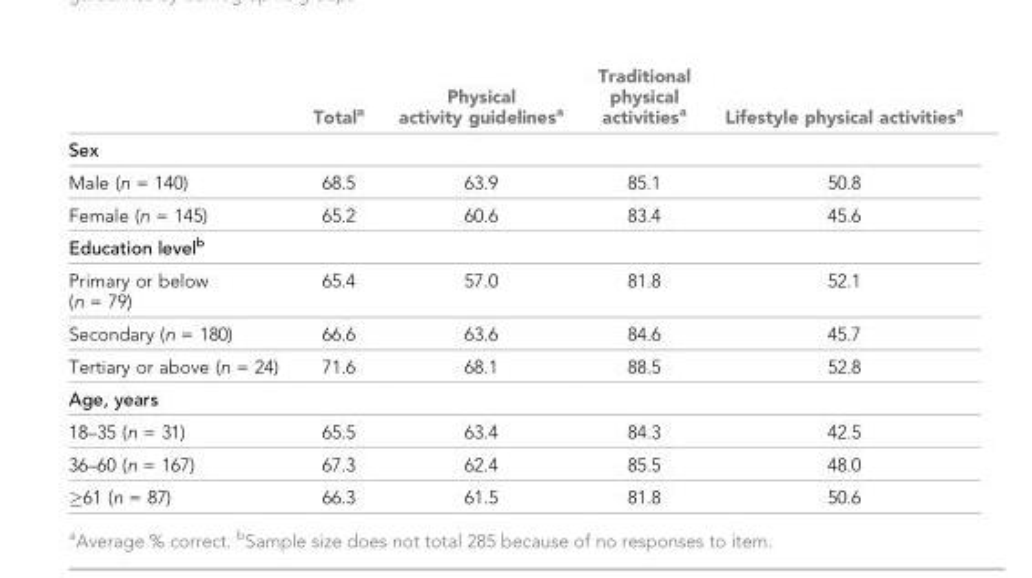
<table><thead><tr><td></td><td>Total<sup>a</sup></td><td>Physical activity guidelines<sup>a</sup></td><td>Traditional physical activities<sup>a</sup></td><td>Lifestyle physical activities<sup>a</sup></td></tr></thead><tbody><tr><td colspan="5">Sex</td></tr><tr><td>Male (n = 140)</td><td>68.5</td><td>63.9</td><td>85.1</td><td>50.8</td></tr><tr><td>Female (n = 145)</td><td>65.2</td><td>60.6</td><td>83.4</td><td>45.6</td></tr><tr><td colspan="5">Education level<sup>b</sup></td></tr><tr><td>Primary or below (n = 79)</td><td>65.4</td><td>57.0</td><td>81.8</td><td>52.1</td></tr><tr><td>Secondary (n = 180)</td><td>66.6</td><td>63.6</td><td>84.6</td><td>45.7</td></tr><tr><td>Tertiary or above (n = 24)</td><td>71.6</td><td>68.1</td><td>88.5</td><td>52.8</td></tr><tr><td colspan="5">Age, years</td></tr><tr><td>18–35 (n = 31)</td><td>65.5</td><td>63.4</td><td>84.3</td><td>42.5</td></tr><tr><td>36–60 (n = 167)</td><td>67.3</td><td>62.4</td><td>85.5</td><td>48.0</td></tr><tr><td>≥61 (n = 87)</td><td>66.3</td><td>61.5</td><td>81.8</td><td>50.6</td></tr></tbody></table>